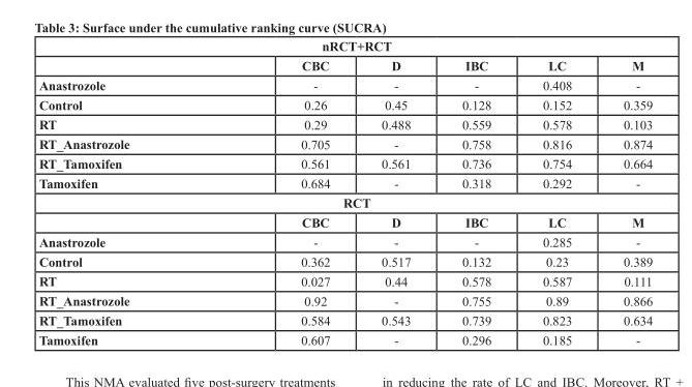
<table><thead><tr><td colspan="6">nRCT+RCT</td></tr><tr><td></td><td>CBC</td><td>D</td><td>IBC</td><td>LC</td><td>M</td></tr></thead><tbody><tr><td>Anastrozole</td><td>-</td><td>-</td><td>-</td><td>0.408</td><td>-</td></tr><tr><td>Control</td><td>0.26</td><td>0.45</td><td>0.128</td><td>0.152</td><td>0.359</td></tr><tr><td>RT</td><td>0.29</td><td>0.488</td><td>0.559</td><td>0.578</td><td>0.103</td></tr><tr><td>RT_Anastrozole</td><td>0.705</td><td>-</td><td>0.758</td><td>0.816</td><td>0.874</td></tr><tr><td>RT_Tamoxifen</td><td>0.561</td><td>0.561</td><td>0.736</td><td>0.754</td><td>0.664</td></tr><tr><td>Tamoxifen</td><td>0.684</td><td>-</td><td>0.318</td><td>0.292</td><td>-</td></tr><tr><td colspan="6">RCT</td></tr><tr><td></td><td>CBC</td><td>D</td><td>IBC</td><td>LC</td><td>M</td></tr><tr><td>Anastrozole</td><td>-</td><td>-</td><td>-</td><td>0.285</td><td>-</td></tr><tr><td>Control</td><td>0.362</td><td>0.517</td><td>0.132</td><td>0.23</td><td>0.389</td></tr><tr><td>RT</td><td>0.027</td><td>0.44</td><td>0.578</td><td>0.587</td><td>0.111</td></tr><tr><td>RT_Anastrozole</td><td>0.92</td><td>-</td><td>0.755</td><td>0.89</td><td>0.866</td></tr><tr><td>RT_Tamoxifen</td><td>0.584</td><td>0.543</td><td>0.739</td><td>0.823</td><td>0.634</td></tr><tr><td>Tamoxifen</td><td>0.607</td><td>-</td><td>0.296</td><td>0.185</td><td>-</td></tr></tbody></table>